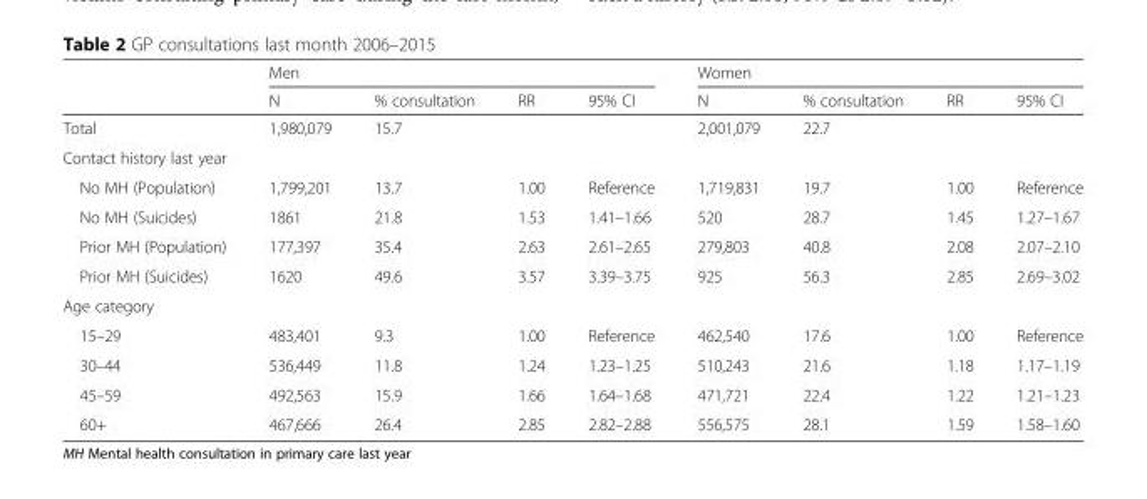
<table><thead><tr><td rowspan="2"></td><td colspan="4">Men</td><td colspan="4">Women</td></tr><tr><td>N</td><td>% consultation</td><td>RR</td><td>95% CI</td><td>N</td><td>% consultation</td><td>RR</td><td>95% CI</td></tr></thead><tbody><tr><td>Total</td><td>1,980,079</td><td>15.7</td><td></td><td></td><td>2,001,079</td><td>22.7</td><td></td><td></td></tr><tr><td colspan="9">Contact history last year</td></tr><tr><td>No MH (Population)</td><td>1,799,201</td><td>13.7</td><td>1.00</td><td>Reference</td><td>1,719,831</td><td>19.7</td><td>1.00</td><td>Reference</td></tr><tr><td>No MH (Suicides)</td><td>1861</td><td>21.8</td><td>1.53</td><td>1.41–1.66</td><td>520</td><td>28.7</td><td>1.45</td><td>1.27–1.67</td></tr><tr><td>Prior MH (Population)</td><td>177,397</td><td>35.4</td><td>2.63</td><td>2.61–2.65</td><td>279,803</td><td>40.8</td><td>2.08</td><td>2.07–2.10</td></tr><tr><td>Prior MH (Suicides)</td><td>1620</td><td>49.6</td><td>3.57</td><td>3.39–3.75</td><td>925</td><td>56.3</td><td>2.85</td><td>2.69–3.02</td></tr><tr><td colspan="9">Age category</td></tr><tr><td>15–29</td><td>483,401</td><td>9.3</td><td>1.00</td><td>Reference</td><td>462,540</td><td>17.6</td><td>1.00</td><td>Reference</td></tr><tr><td>30–44</td><td>536,449</td><td>11.8</td><td>1.24</td><td>1.23–1.25</td><td>510,243</td><td>21.6</td><td>1.18</td><td>1.17–1.19</td></tr><tr><td>45–59</td><td>492,563</td><td>15.9</td><td>1.66</td><td>1.64–1.68</td><td>471,721</td><td>22.4</td><td>1.22</td><td>1.21–1.23</td></tr><tr><td>60+</td><td>467,666</td><td>26.4</td><td>2.85</td><td>2.82–2.88</td><td>556,575</td><td>28.1</td><td>1.59</td><td>1.58–1.60</td></tr></tbody></table>